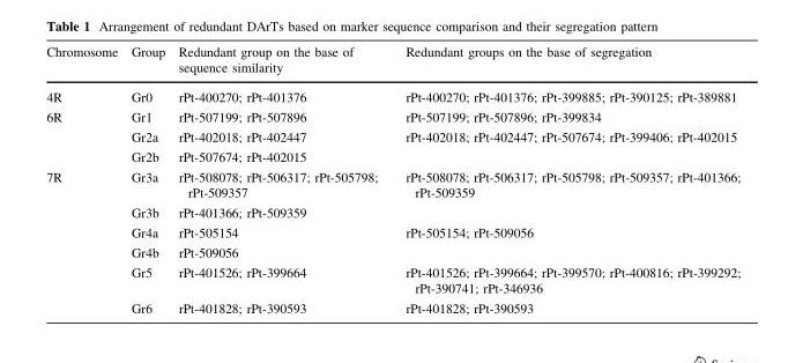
<table><thead><tr><td>Chromosome</td><td>Group</td><td>Redundant group on the base of sequence similarity</td><td>Redundant groups on the base of segregation</td></tr></thead><tbody><tr><td>4R</td><td>Gr0</td><td>rPt-400270; rPt-401376</td><td>rPt-400270; rPt-401376; rPt-399885; rPt-390125; rPt-389881</td></tr><tr><td rowspan="3">6R</td><td>Gr1</td><td>rPt-507199; rPt-507896</td><td>rPt-507199; rPt-507896; rPt-399834</td></tr><tr><td>Gr2a</td><td>rPt-402018; rPt-402447</td><td>rPt-402018; rPt-402447; rPt-507674; rPt-399406; rPt-402015</td></tr><tr><td>Gr2b</td><td>rPt-507674; rPt-402015</td><td></td></tr><tr><td rowspan="6">7R</td><td>Gr3a</td><td>rPt-508078; rPt-506317; rPt-505798; rPt-509357</td><td>rPt-508078; rPt-506317; rPt-505798; rPt-509357; rPt-401366; rPt-509359</td></tr><tr><td>Gr3b</td><td>rPt-401366; rPt-509359</td><td></td></tr><tr><td>Gr4a</td><td>rPt-505154</td><td>rPt-505154; rPt-509056</td></tr><tr><td>Gr4b</td><td>rPt-509056</td><td></td></tr><tr><td>Gr5</td><td>rPt-401526; rPt-399664</td><td>rPt-401526; rPt-399664; rPt-399570; rPt-400816; rPt-399292; rPt-390741; rPt-346936</td></tr><tr><td>Gr6</td><td>rPt-401828; rPt-390593</td><td>rPt-401828; rPt-390593</td></tr></tbody></table>